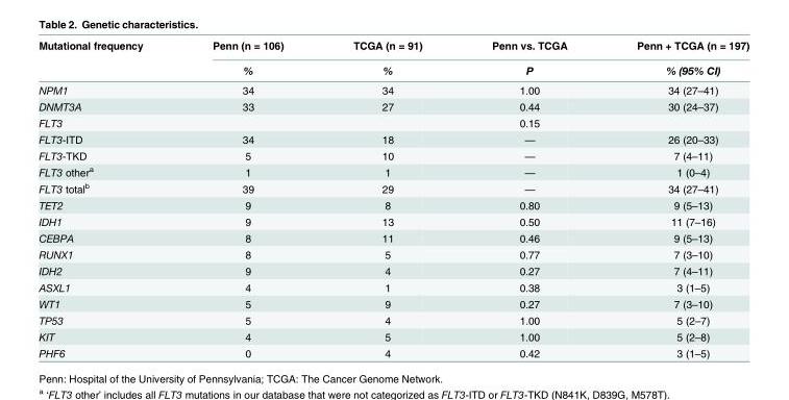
<table><thead><tr><td rowspan="2">Mutational frequency</td><td rowspan="2">Penn (n = 106) %</td><td rowspan="2">TCGA (n = 91) %</td><td rowspan="2">Penn vs. TCGA P</td><td rowspan="2">Penn + TCGA (n = 197) % (95% CI)</td></tr><tr></tr></thead><tbody><tr><td>NPM1</td><td>34</td><td>34</td><td>1.00</td><td>34 (27–41)</td></tr><tr><td>DNMT3A</td><td>33</td><td>27</td><td>0.44</td><td>30 (24–37)</td></tr><tr><td>FLT3</td><td></td><td></td><td>0.15</td><td></td></tr><tr><td>FLT3-ITD</td><td>34</td><td>18</td><td>—</td><td>26 (20–33)</td></tr><tr><td>FLT3-TKD</td><td>5</td><td>10</td><td>—</td><td>7 (4–11)</td></tr><tr><td>FLT3 other<sup>a</sup></td><td>1</td><td>1</td><td>—</td><td>1 (0–4)</td></tr><tr><td>FLT3 total<sup>b</sup></td><td>39</td><td>29</td><td>—</td><td>34 (27–41)</td></tr><tr><td>TET2</td><td>9</td><td>8</td><td>0.80</td><td>9 (5–13)</td></tr><tr><td>IDH1</td><td>9</td><td>13</td><td>0.50</td><td>11 (7–16)</td></tr><tr><td>CEBPA</td><td>8</td><td>11</td><td>0.46</td><td>9 (5–13)</td></tr><tr><td>RUNX1</td><td>8</td><td>5</td><td>0.77</td><td>7 (3–10)</td></tr><tr><td>IDH2</td><td>9</td><td>4</td><td>0.27</td><td>7 (4–11)</td></tr><tr><td>ASXL1</td><td>4</td><td>1</td><td>0.38</td><td>3 (1–5)</td></tr><tr><td>WT1</td><td>5</td><td>9</td><td>0.27</td><td>7 (3–10)</td></tr><tr><td>TP53</td><td>5</td><td>4</td><td>1.00</td><td>5 (2–7)</td></tr><tr><td>KIT</td><td>4</td><td>5</td><td>1.00</td><td>5 (2–8)</td></tr><tr><td>PHF6</td><td>0</td><td>4</td><td>0.42</td><td>3 (1–5)</td></tr></tbody></table>